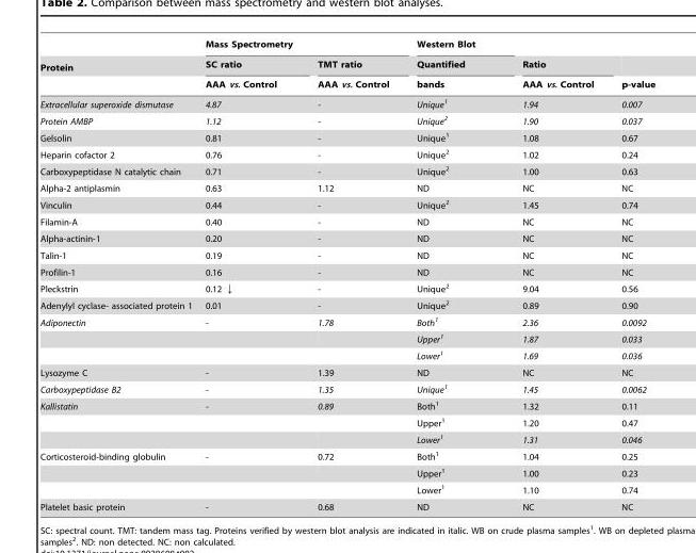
<table><thead><tr><td rowspan="3">Protein</td><td colspan="2">Mass Spectrometry</td><td rowspan="3">Western Blot Quantified bands</td><td rowspan="3">Ratio AAA vs. Control</td><td rowspan="3">p-value</td></tr><tr><td rowspan="2">SC ratio AAA vs. Control</td><td rowspan="2">TMT ratio AAA vs. Control</td></tr><tr></tr></thead><tbody><tr><td>Extracellular superoxide dismutase</td><td>4.87</td><td>-</td><td>Unique<sup>1</sup></td><td>1.94</td><td>0.007</td></tr><tr><td>Protein AMBP</td><td>1.12</td><td>-</td><td>Unique<sup>2</sup></td><td>1.90</td><td>0.037</td></tr><tr><td>Gelsolin</td><td>0.81</td><td>-</td><td>Unique<sup>1</sup></td><td>1.08</td><td>0.67</td></tr><tr><td>Heparin cofactor 2</td><td>0.76</td><td>-</td><td>Unique<sup>2</sup></td><td>1.02</td><td>0.24</td></tr><tr><td>Carboxypeptidase N catalytic chain</td><td>0.71</td><td>-</td><td>Unique<sup>2</sup></td><td>1.00</td><td>0.63</td></tr><tr><td>Alpha-2 antiplasmin</td><td>0.63</td><td>1.12</td><td>ND</td><td>NC</td><td>NC</td></tr><tr><td>Vinculin</td><td>0.44</td><td>-</td><td>Unique<sup>2</sup></td><td>1.45</td><td>0.74</td></tr><tr><td>Filamin-A</td><td>0.40</td><td>-</td><td>ND</td><td>NC</td><td>NC</td></tr><tr><td>Alpha-actinin-1</td><td>0.20</td><td>-</td><td>ND</td><td>NC</td><td>NC</td></tr><tr><td>Talin-1</td><td>0.19</td><td>-</td><td>ND</td><td>NC</td><td>NC</td></tr><tr><td>Profilin-1</td><td>0.16</td><td>-</td><td>ND</td><td>NC</td><td>NC</td></tr><tr><td>Pleckstrin</td><td>0.12 ↓</td><td>-</td><td>Unique<sup>2</sup></td><td>9.04</td><td>0.56</td></tr><tr><td>Adenylyl cyclase- associated protein 1</td><td>0.01</td><td>-</td><td>Unique<sup>2</sup></td><td>0.89</td><td>0.90</td></tr><tr><td rowspan="3">Adiponectin</td><td>-</td><td>1.78</td><td>Both<sup>1</sup></td><td>2.36</td><td>0.0092</td></tr><tr><td></td><td></td><td>Upper<sup>1</sup></td><td>1.87</td><td>0.033</td></tr><tr><td></td><td></td><td>Lower<sup>1</sup></td><td>1.69</td><td>0.036</td></tr><tr><td>Lysozyme C</td><td>-</td><td>1.39</td><td>ND</td><td>NC</td><td>NC</td></tr><tr><td>Carboxypeptidase B2</td><td>-</td><td>1.35</td><td>Unique<sup>1</sup></td><td>1.45</td><td>0.0062</td></tr><tr><td rowspan="3">Kallistatin</td><td>-</td><td>0.89</td><td>Both<sup>1</sup></td><td>1.32</td><td>0.11</td></tr><tr><td></td><td></td><td>Upper<sup>1</sup></td><td>1.20</td><td>0.47</td></tr><tr><td></td><td></td><td>Lower<sup>1</sup></td><td>1.31</td><td>0.046</td></tr><tr><td rowspan="3">Corticosteroid-binding globulin</td><td>-</td><td>0.72</td><td>Both<sup>1</sup></td><td>1.04</td><td>0.25</td></tr><tr><td></td><td></td><td>Upper<sup>1</sup></td><td>1.00</td><td>0.23</td></tr><tr><td></td><td></td><td>Lower<sup>1</sup></td><td>1.10</td><td>0.74</td></tr><tr><td>Platelet basic protein</td><td>-</td><td>0.68</td><td>ND</td><td>NC</td><td>NC</td></tr></tbody></table>